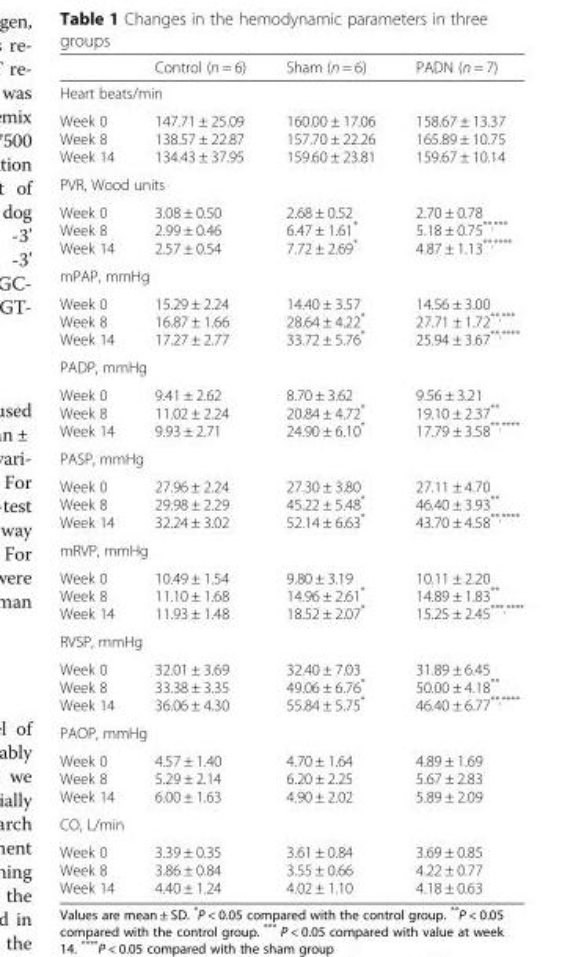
<table><thead><tr><td></td><td>Control (n = 6)</td><td>Sham (n = 6)</td><td>PADN (n = 7)</td></tr></thead><tbody><tr><td colspan="4">Heart beats/min</td></tr><tr><td>Week 0 Week 8 Week 14</td><td>147.71 ± 25.09 138.57 ± 22.87 134.43 ± 37.95</td><td>160.00 ± 17.06 157.70 ± 22.26 159.60 ± 23.81</td><td>158.67 ± 13.37 165.89 ± 10.75 159.67 ± 10.14</td></tr><tr><td colspan="4">PVR, Wood units</td></tr><tr><td>Week 0 Week 8 Week 14</td><td>3.08 ± 0.50 2.99 ± 0.46 2.57 ± 0.54</td><td>2.68 ± 0.52 6.47 ± 1.61* 7.72 ± 2.69*</td><td>2.70 ± 0.78 5.18 ± 0.75<sup>**,***</sup> 4.87 ± 1.13<sup>**,****</sup></td></tr><tr><td colspan="4">mPAP, mmHg</td></tr><tr><td>Week 0 Week 8 Week 14</td><td>15.29 ± 2.24 16.87 ± 1.66 17.27 ± 2.77</td><td>14.40 ± 3.57 28.64 ± 4.22* 33.72 ± 5.76*</td><td>14.56 ± 3.00 27.71 ± 1.72<sup>**,***</sup> 25.94 ± 3.67<sup>**,****</sup></td></tr><tr><td colspan="4">PADP, mmHg</td></tr><tr><td>Week 0 Week 8 Week 14</td><td>9.41 ± 2.62 11.02 ± 2.24 9.93 ± 2.71</td><td>8.70 ± 3.62 20.84 ± 4.72* 24.90 ± 6.10*</td><td>9.56 ± 3.21 19.10 ± 2.37** 17.79 ± 3.58<sup>**,****</sup></td></tr><tr><td colspan="4">PASP, mmHg</td></tr><tr><td>Week 0 Week 8 Week 14</td><td>27.96 ± 2.24 29.98 ± 2.29 32.24 ± 3.02</td><td>27.30 ± 3.80 45.22 ± 5.48* 52.14 ± 6.63*</td><td>27.11 ± 4.70 46.40 ± 3.93** 43.70 ± 4.58<sup>**,****</sup></td></tr><tr><td colspan="4">mRVP, mmHg</td></tr><tr><td>Week 0 Week 8 Week 14</td><td>10.49 ± 1.54 11.10 ± 1.68 11.93 ± 1.48</td><td>9.80 ± 3.19 14.96 ± 2.61* 18.52 ± 2.07*</td><td>10.11 ± 2.20 14.89 ± 1.83** 15.25 ± 2.45<sup>***,****</sup></td></tr><tr><td colspan="4">RVSP, mmHg</td></tr><tr><td>Week 0 Week 8 Week 14</td><td>32.01 ± 3.69 33.38 ± 3.35 36.06 ± 4.30</td><td>32.40 ± 7.03 49.06 ± 6.76* 55.84 ± 5.75*</td><td>31.89 ± 6.45 50.00 ± 4.18** 46.40 ± 6.77<sup>**,****</sup></td></tr><tr><td colspan="4">PAOP, mmHg</td></tr><tr><td>Week 0 Week 8 Week 14</td><td>4.57 ± 1.40 5.29 ± 2.14 6.00 ± 1.63</td><td>4.70 ± 1.64 6.20 ± 2.25 4.90 ± 2.02</td><td>4.89 ± 1.69 5.67 ± 2.83 5.89 ± 2.09</td></tr><tr><td colspan="4">CO, L/min</td></tr><tr><td>Week 0 Week 8 Week 14</td><td>3.39 ± 0.35 3.86 ± 0.84 4.40 ± 1.24</td><td>3.61 ± 0.84 3.55 ± 0.66 4.02 ± 1.10</td><td>3.69 ± 0.85 4.22 ± 0.77 4.18 ± 0.63</td></tr></tbody></table>